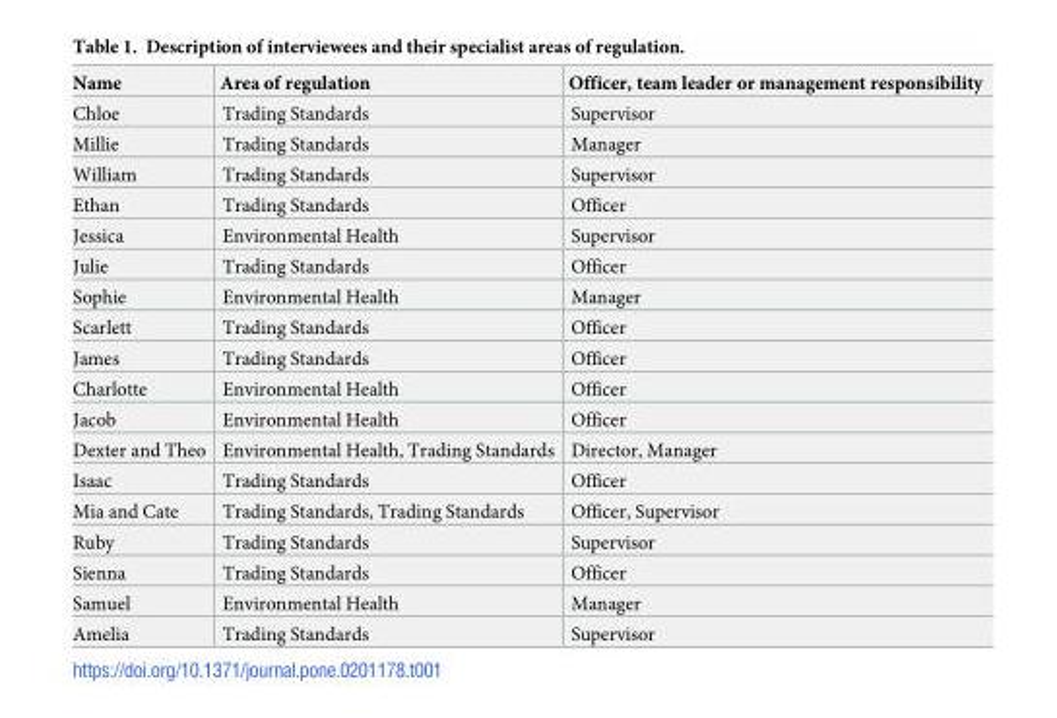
<table><thead><tr><td>Name</td><td>Area of regulation</td><td>Officer, team leader or management responsibility</td></tr></thead><tbody><tr><td>Chloe</td><td>Trading Standards</td><td>Supervisor</td></tr><tr><td>Millie</td><td>Trading Standards</td><td>Manager</td></tr><tr><td>William</td><td>Trading Standards</td><td>Supervisor</td></tr><tr><td>Ethan</td><td>Trading Standards</td><td>Officer</td></tr><tr><td>Jessica</td><td>Environmental Health</td><td>Supervisor</td></tr><tr><td>Julie</td><td>Trading Standards</td><td>Officer</td></tr><tr><td>Sophie</td><td>Environmental Health</td><td>Manager</td></tr><tr><td>Scarlett</td><td>Trading Standards</td><td>Officer</td></tr><tr><td>James</td><td>Trading Standards</td><td>Officer</td></tr><tr><td>Charlotte</td><td>Environmental Health</td><td>Officer</td></tr><tr><td>Jacob</td><td>Environmental Health</td><td>Officer</td></tr><tr><td>Dexter and Theo</td><td>Environmental Health, Trading Standards</td><td>Director, Manager</td></tr><tr><td>Isaac</td><td>Trading Standards</td><td>Officer</td></tr><tr><td>Mia and Cate</td><td>Trading Standards, Trading Standards</td><td>Officer, Supervisor</td></tr><tr><td>Ruby</td><td>Trading Standards</td><td>Supervisor</td></tr><tr><td>Sienna</td><td>Trading Standards</td><td>Officer</td></tr><tr><td>Samuel</td><td>Environmental Health</td><td>Manager</td></tr><tr><td>Amelia</td><td>Trading Standards</td><td>Supervisor</td></tr></tbody></table>